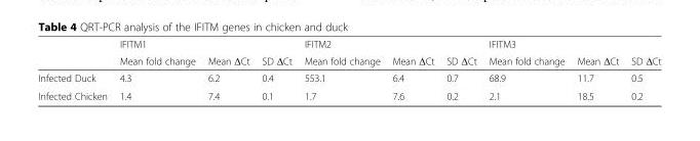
<table><thead><tr><td rowspan="2"></td><td rowspan="2">IFITM1 Mean fold change</td><td rowspan="2">Mean ΔCt</td><td rowspan="2">SD ΔCt</td><td rowspan="2">IFITM2 Mean fold change</td><td rowspan="2">Mean ΔCt</td><td rowspan="2">SD ΔCt</td><td rowspan="2">IFITM3 Mean fold change</td><td rowspan="2">Mean ΔCt</td><td rowspan="2">SD ΔCt</td></tr><tr></tr></thead><tbody><tr><td>Infected Duck</td><td>4.3</td><td>6.2</td><td>0.4</td><td>553.1</td><td>6.4</td><td>0.7</td><td>68.9</td><td>11.7</td><td>0.5</td></tr><tr><td>Infected Chicken</td><td>1.4</td><td>7.4</td><td>0.1</td><td>1.7</td><td>7.6</td><td>0.2</td><td>2.1</td><td>18.5</td><td>0.2</td></tr></tbody></table>